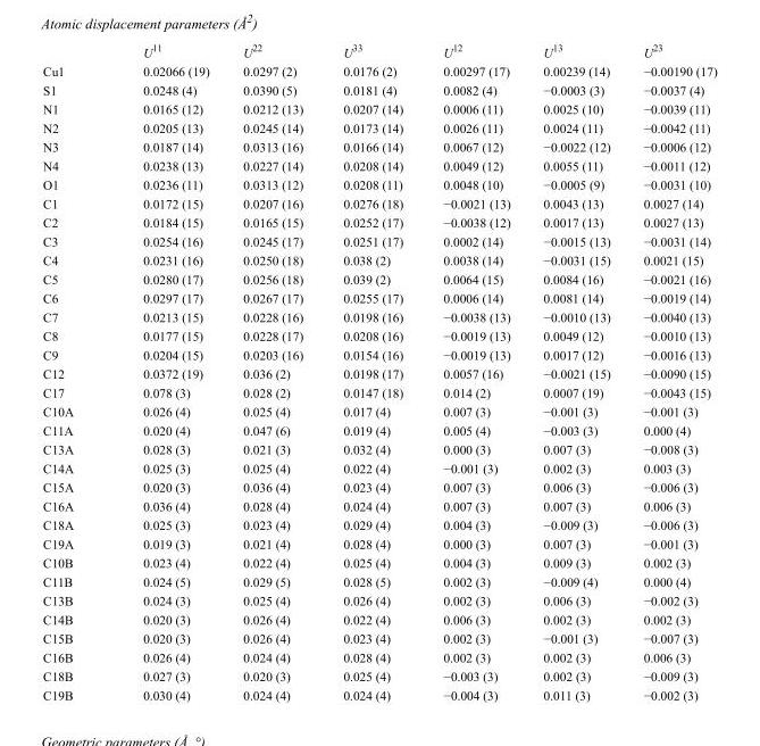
<table><thead><tr><td></td><td>U<sup>11</sup></td><td>U<sup>22</sup></td><td>U<sup>33</sup></td><td>U<sup>12</sup></td><td>U<sup>13</sup></td><td>U<sup>23</sup></td></tr></thead><tbody><tr><td>Cu1</td><td>0.02066 (19)</td><td>0.0297 (2)</td><td>0.0176 (2)</td><td>0.00297 (17)</td><td>0.00239 (14)</td><td>−0.00190 (17)</td></tr><tr><td>S1</td><td>0.0248 (4)</td><td>0.0390 (5)</td><td>0.0181 (4)</td><td>0.0082 (4)</td><td>−0.0003 (3)</td><td>−0.0037 (4)</td></tr><tr><td>N1</td><td>0.0165 (12)</td><td>0.0212 (13)</td><td>0.0207 (14)</td><td>0.0006 (11)</td><td>0.0025 (10)</td><td>−0.0039 (11)</td></tr><tr><td>N2</td><td>0.0205 (13)</td><td>0.0245 (14)</td><td>0.0173 (14)</td><td>0.0026 (11)</td><td>0.0024 (11)</td><td>−0.0042 (11)</td></tr><tr><td>N3</td><td>0.0187 (14)</td><td>0.0313 (16)</td><td>0.0166 (14)</td><td>0.0067 (12)</td><td>−0.0022 (12)</td><td>−0.0006 (12)</td></tr><tr><td>N4</td><td>0.0238 (13)</td><td>0.0227 (14)</td><td>0.0208 (14)</td><td>0.0049 (12)</td><td>0.0055 (11)</td><td>−0.0011 (12)</td></tr><tr><td>O1</td><td>0.0236 (11)</td><td>0.0313 (12)</td><td>0.0208 (11)</td><td>0.0048 (10)</td><td>−0.0005 (9)</td><td>−0.0031 (10)</td></tr><tr><td>C1</td><td>0.0172 (15)</td><td>0.0207 (16)</td><td>0.0276 (18)</td><td>−0.0021 (13)</td><td>0.0043 (13)</td><td>0.0027 (14)</td></tr><tr><td>C2</td><td>0.0184 (15)</td><td>0.0165 (15)</td><td>0.0252 (17)</td><td>−0.0038 (12)</td><td>0.0017 (13)</td><td>0.0027 (13)</td></tr><tr><td>C3</td><td>0.0254 (16)</td><td>0.0245 (17)</td><td>0.0251 (17)</td><td>0.0002 (14)</td><td>−0.0015 (13)</td><td>−0.0031 (14)</td></tr><tr><td>C4</td><td>0.0231 (16)</td><td>0.0250 (18)</td><td>0.038 (2)</td><td>0.0038 (14)</td><td>−0.0031 (15)</td><td>0.0021 (15)</td></tr><tr><td>C5</td><td>0.0280 (17)</td><td>0.0256 (18)</td><td>0.039 (2)</td><td>0.0064 (15)</td><td>0.0084 (16)</td><td>−0.0021 (16)</td></tr><tr><td>C6</td><td>0.0297 (17)</td><td>0.0267 (17)</td><td>0.0255 (17)</td><td>0.0006 (14)</td><td>0.0081 (14)</td><td>−0.0019 (14)</td></tr><tr><td>C7</td><td>0.0213 (15)</td><td>0.0228 (16)</td><td>0.0198 (16)</td><td>−0.0038 (13)</td><td>−0.0010 (13)</td><td>−0.0040 (13)</td></tr><tr><td>C8</td><td>0.0177 (15)</td><td>0.0228 (17)</td><td>0.0208 (16)</td><td>−0.0019 (13)</td><td>0.0049 (12)</td><td>−0.0010 (13)</td></tr><tr><td>C9</td><td>0.0204 (15)</td><td>0.0203 (16)</td><td>0.0154 (16)</td><td>−0.0019 (13)</td><td>0.0017 (12)</td><td>−0.0016 (13)</td></tr><tr><td>C12</td><td>0.0372 (19)</td><td>0.036 (2)</td><td>0.0198 (17)</td><td>0.0057 (16)</td><td>−0.0021 (15)</td><td>−0.0090 (15)</td></tr><tr><td>C17</td><td>0.078 (3)</td><td>0.028 (2)</td><td>0.0147 (18)</td><td>0.014 (2)</td><td>0.0007 (19)</td><td>−0.0043 (15)</td></tr><tr><td>C10A</td><td>0.026 (4)</td><td>0.025 (4)</td><td>0.017 (4)</td><td>0.007 (3)</td><td>−0.001 (3)</td><td>−0.001 (3)</td></tr><tr><td>C11A</td><td>0.020 (4)</td><td>0.047 (6)</td><td>0.019 (4)</td><td>0.005 (4)</td><td>−0.003 (3)</td><td>0.000 (4)</td></tr><tr><td>C13A</td><td>0.028 (3)</td><td>0.021 (3)</td><td>0.032 (4)</td><td>0.000 (3)</td><td>0.007 (3)</td><td>−0.008 (3)</td></tr><tr><td>C14A</td><td>0.025 (3)</td><td>0.025 (4)</td><td>0.022 (4)</td><td>−0.001 (3)</td><td>0.002 (3)</td><td>0.003 (3)</td></tr><tr><td>C15A</td><td>0.020 (3)</td><td>0.036 (4)</td><td>0.023 (4)</td><td>0.007 (3)</td><td>0.006 (3)</td><td>−0.006 (3)</td></tr><tr><td>C16A</td><td>0.036 (4)</td><td>0.028 (4)</td><td>0.024 (4)</td><td>0.007 (3)</td><td>0.007 (3)</td><td>0.006 (3)</td></tr><tr><td>C18A</td><td>0.025 (3)</td><td>0.023 (4)</td><td>0.029 (4)</td><td>0.004 (3)</td><td>−0.009 (3)</td><td>−0.006 (3)</td></tr><tr><td>C19A</td><td>0.019 (3)</td><td>0.021 (4)</td><td>0.028 (4)</td><td>0.000 (3)</td><td>0.007 (3)</td><td>−0.001 (3)</td></tr><tr><td>C10B</td><td>0.023 (4)</td><td>0.022 (4)</td><td>0.025 (4)</td><td>0.004 (3)</td><td>0.009 (3)</td><td>0.002 (3)</td></tr><tr><td>C11B</td><td>0.024 (5)</td><td>0.029 (5)</td><td>0.028 (5)</td><td>0.002 (3)</td><td>−0.009 (4)</td><td>0.000 (4)</td></tr><tr><td>C13B</td><td>0.024 (3)</td><td>0.025 (4)</td><td>0.026 (4)</td><td>0.002 (3)</td><td>0.006 (3)</td><td>−0.002 (3)</td></tr><tr><td>C14B</td><td>0.020 (3)</td><td>0.026 (4)</td><td>0.022 (4)</td><td>0.006 (3)</td><td>0.002 (3)</td><td>0.002 (3)</td></tr><tr><td>C15B</td><td>0.020 (3)</td><td>0.026 (4)</td><td>0.023 (4)</td><td>0.002 (3)</td><td>−0.001 (3)</td><td>−0.007 (3)</td></tr><tr><td>C16B</td><td>0.026 (4)</td><td>0.024 (4)</td><td>0.028 (4)</td><td>0.002 (3)</td><td>0.002 (3)</td><td>0.006 (3)</td></tr><tr><td>C18B</td><td>0.027 (3)</td><td>0.020 (3)</td><td>0.025 (4)</td><td>−0.003 (3)</td><td>0.002 (3)</td><td>−0.009 (3)</td></tr><tr><td>C19B</td><td>0.030 (4)</td><td>0.024 (4)</td><td>0.024 (4)</td><td>−0.004 (3)</td><td>0.011 (3)</td><td>−0.002 (3)</td></tr></tbody></table>